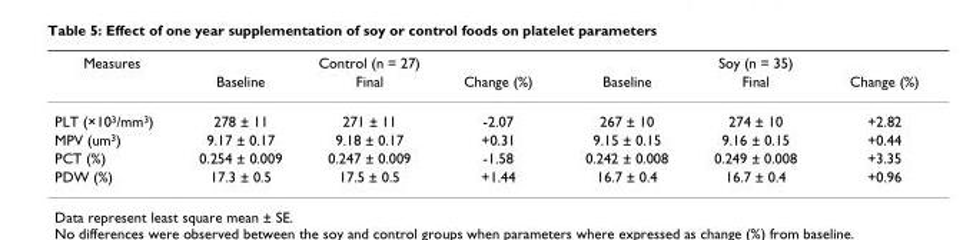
<table><thead><tr><td rowspan="2">Measures</td><td colspan="3">Control (n = 27)</td><td colspan="3">Soy (n = 35)</td></tr><tr><td>Baseline</td><td>Final</td><td>Change (%)</td><td>Baseline</td><td>Final</td><td>Change (%)</td></tr></thead><tbody><tr><td>PLT (×10<sup>3</sup>/mm<sup>3</sup>)</td><td>278 ± 11</td><td>271 ± 11</td><td>-2.07</td><td>267 ± 10</td><td>274 ± 10</td><td>+2.82</td></tr><tr><td>MPV (um<sup>3</sup>)</td><td>9.17 ± 0.17</td><td>9.18 ± 0.17</td><td>+0.31</td><td>9.15 ± 0.15</td><td>9.16 ± 0.15</td><td>+0.44</td></tr><tr><td>PCT (%)</td><td>0.254 ± 0.009</td><td>0.247 ± 0.009</td><td>-1.58</td><td>0.242 ± 0.008</td><td>0.249 ± 0.008</td><td>+3.35</td></tr><tr><td>PDW (%)</td><td>17.3 ± 0.5</td><td>17.5 ± 0.5</td><td>+1.44</td><td>16.7 ± 0.4</td><td>16.7 ± 0.4</td><td>+0.96</td></tr></tbody></table>